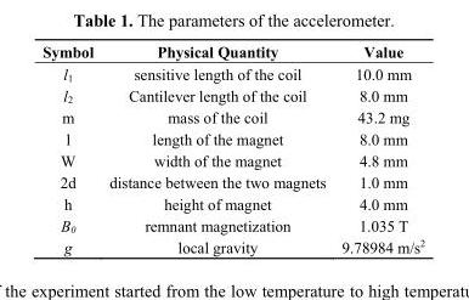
<table><thead><tr><td>Symbol</td><td>Physical Quantity</td><td>Value</td></tr></thead><tbody><tr><td>l<sub>1</sub></td><td>sensitive length of the coil</td><td>10.0 mm</td></tr><tr><td>l<sub>2</sub></td><td>Cantilever length of the coil</td><td>8.0 mm</td></tr><tr><td>m</td><td>mass of the coil</td><td>43.2 mg</td></tr><tr><td>l</td><td>length of the magnet</td><td>8.0 mm</td></tr><tr><td>W</td><td>width of the magnet</td><td>4.8 mm</td></tr><tr><td>2d</td><td>distance between the two magnets</td><td>1.0 mm</td></tr><tr><td>h</td><td>height of magnet</td><td>4.0 mm</td></tr><tr><td>B<sub>0</sub></td><td>remnant magnetization</td><td>1.035 T</td></tr><tr><td>g</td><td>local gravity</td><td>9.78984 m/s<sup>2</sup></td></tr></tbody></table>